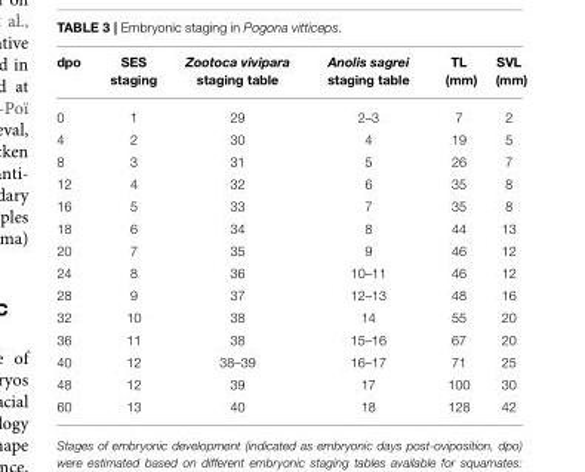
<table><thead><tr><td>dpo</td><td>SES staging</td><td>Zootoca vivipara staging table</td><td>Anolis sagrei staging table</td><td>TL (mm)</td><td>SVL (mm)</td></tr></thead><tbody><tr><td>0</td><td>1</td><td>29</td><td>2–3</td><td>7</td><td>2</td></tr><tr><td>4</td><td>2</td><td>30</td><td>4</td><td>19</td><td>5</td></tr><tr><td>8</td><td>3</td><td>31</td><td>5</td><td>26</td><td>7</td></tr><tr><td>12</td><td>4</td><td>32</td><td>6</td><td>35</td><td>8</td></tr><tr><td>16</td><td>5</td><td>33</td><td>7</td><td>35</td><td>8</td></tr><tr><td>18</td><td>6</td><td>34</td><td>8</td><td>44</td><td>13</td></tr><tr><td>20</td><td>7</td><td>35</td><td>9</td><td>46</td><td>12</td></tr><tr><td>24</td><td>8</td><td>36</td><td>10–11</td><td>46</td><td>12</td></tr><tr><td>28</td><td>9</td><td>37</td><td>12–13</td><td>48</td><td>16</td></tr><tr><td>32</td><td>10</td><td>38</td><td>14</td><td>55</td><td>20</td></tr><tr><td>36</td><td>11</td><td>38</td><td>15–16</td><td>67</td><td>20</td></tr><tr><td>40</td><td>12</td><td>38–39</td><td>16–17</td><td>71</td><td>25</td></tr><tr><td>48</td><td>12</td><td>39</td><td>17</td><td>100</td><td>30</td></tr><tr><td>60</td><td>13</td><td>40</td><td>18</td><td>128</td><td>42</td></tr></tbody></table>